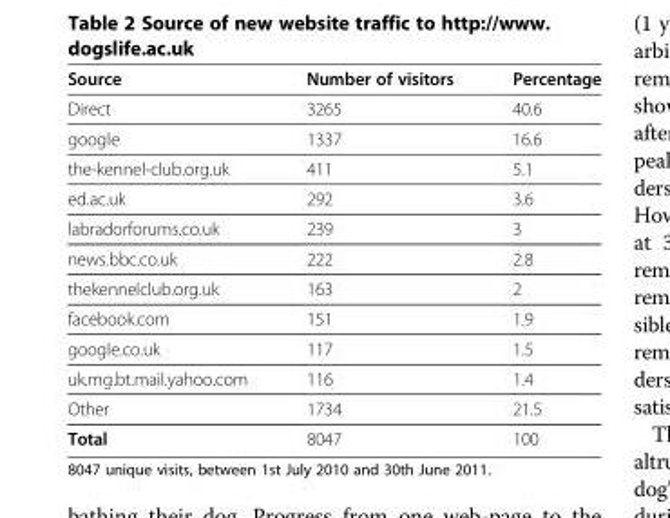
<table><thead><tr><td>Source</td><td>Number of visitors</td><td>Percentage</td></tr></thead><tbody><tr><td>Direct</td><td>3265</td><td>40.6</td></tr><tr><td>google</td><td>1337</td><td>16.6</td></tr><tr><td>the-kennel-club.org.uk</td><td>411</td><td>5.1</td></tr><tr><td>ed.ac.uk</td><td>292</td><td>3.6</td></tr><tr><td>labradorforums.co.uk</td><td>239</td><td>3</td></tr><tr><td>news.bbc.co.uk</td><td>222</td><td>2.8</td></tr><tr><td>thekennelclub.org.uk</td><td>163</td><td>2</td></tr><tr><td>facebook.com</td><td>151</td><td>1.9</td></tr><tr><td>google.co.uk</td><td>117</td><td>1.5</td></tr><tr><td>uk.mg.bt.mail.yahoo.com</td><td>116</td><td>1.4</td></tr><tr><td>Other</td><td>1734</td><td>21.5</td></tr><tr><td>Total</td><td>8047</td><td>100</td></tr></tbody></table>